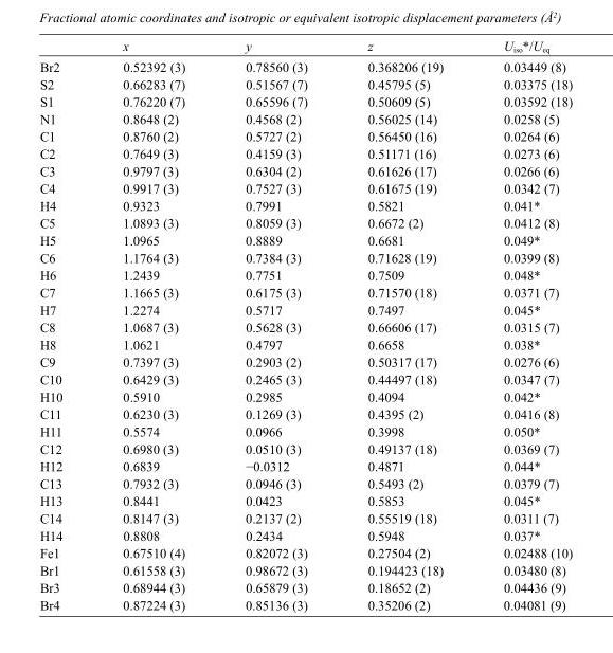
<table><thead><tr><td></td><td>x</td><td>y</td><td>z</td><td>U<sub>iso</sub>*/U<sub>eq</sub></td></tr></thead><tbody><tr><td>Br2</td><td>0.52392 (3)</td><td>0.78560 (3)</td><td>0.368206 (19)</td><td>0.03449 (8)</td></tr><tr><td>S2</td><td>0.66283 (7)</td><td>0.51567 (7)</td><td>0.45795 (5)</td><td>0.03375 (18)</td></tr><tr><td>S1</td><td>0.76220 (7)</td><td>0.65596 (7)</td><td>0.50609 (5)</td><td>0.03592 (18)</td></tr><tr><td>N1</td><td>0.8648 (2)</td><td>0.4568 (2)</td><td>0.56025 (14)</td><td>0.0258 (5)</td></tr><tr><td>C1</td><td>0.8760 (2)</td><td>0.5727 (2)</td><td>0.56450 (16)</td><td>0.0264 (6)</td></tr><tr><td>C2</td><td>0.7649 (3)</td><td>0.4159 (3)</td><td>0.51171 (16)</td><td>0.0273 (6)</td></tr><tr><td>C3</td><td>0.9797 (3)</td><td>0.6304 (2)</td><td>0.61626 (17)</td><td>0.0266 (6)</td></tr><tr><td>C4</td><td>0.9917 (3)</td><td>0.7527 (3)</td><td>0.61675 (19)</td><td>0.0342 (7)</td></tr><tr><td>H4</td><td>0.9323</td><td>0.7991</td><td>0.5821</td><td>0.041*</td></tr><tr><td>C5</td><td>1.0893 (3)</td><td>0.8059 (3)</td><td>0.6672 (2)</td><td>0.0412 (8)</td></tr><tr><td>H5</td><td>1.0965</td><td>0.8889</td><td>0.6681</td><td>0.049*</td></tr><tr><td>C6</td><td>1.1764 (3)</td><td>0.7384 (3)</td><td>0.71628 (19)</td><td>0.0399 (8)</td></tr><tr><td>H6</td><td>1.2439</td><td>0.7751</td><td>0.7509</td><td>0.048*</td></tr><tr><td>C7</td><td>1.1665 (3)</td><td>0.6175 (3)</td><td>0.71570 (18)</td><td>0.0371 (7)</td></tr><tr><td>H7</td><td>1.2274</td><td>0.5717</td><td>0.7497</td><td>0.045*</td></tr><tr><td>C8</td><td>1.0687 (3)</td><td>0.5628 (3)</td><td>0.66606 (17)</td><td>0.0315 (7)</td></tr><tr><td>H8</td><td>1.0621</td><td>0.4797</td><td>0.6658</td><td>0.038*</td></tr><tr><td>C9</td><td>0.7397 (3)</td><td>0.2903 (2)</td><td>0.50317 (17)</td><td>0.0276 (6)</td></tr><tr><td>C10</td><td>0.6429 (3)</td><td>0.2465 (3)</td><td>0.44497 (18)</td><td>0.0347 (7)</td></tr><tr><td>H10</td><td>0.5910</td><td>0.2985</td><td>0.4094</td><td>0.042*</td></tr><tr><td>C11</td><td>0.6230 (3)</td><td>0.1269 (3)</td><td>0.4395 (2)</td><td>0.0416 (8)</td></tr><tr><td>H11</td><td>0.5574</td><td>0.0966</td><td>0.3998</td><td>0.050*</td></tr><tr><td>C12</td><td>0.6980 (3)</td><td>0.0510 (3)</td><td>0.49137 (18)</td><td>0.0369 (7)</td></tr><tr><td>H12</td><td>0.6839</td><td>−0.0312</td><td>0.4871</td><td>0.044*</td></tr><tr><td>C13</td><td>0.7932 (3)</td><td>0.0946 (3)</td><td>0.5493 (2)</td><td>0.0379 (7)</td></tr><tr><td>H13</td><td>0.8441</td><td>0.0423</td><td>0.5853</td><td>0.045*</td></tr><tr><td>C14</td><td>0.8147 (3)</td><td>0.2137 (2)</td><td>0.55519 (18)</td><td>0.0311 (7)</td></tr><tr><td>H14</td><td>0.8808</td><td>0.2434</td><td>0.5948</td><td>0.037*</td></tr><tr><td>Fe1</td><td>0.67510 (4)</td><td>0.82072 (3)</td><td>0.27504 (2)</td><td>0.02488 (10)</td></tr><tr><td>Br1</td><td>0.61558 (3)</td><td>0.98672 (3)</td><td>0.194423 (18)</td><td>0.03480 (8)</td></tr><tr><td>Br3</td><td>0.68944 (3)</td><td>0.65879 (3)</td><td>0.18652 (2)</td><td>0.04436 (9)</td></tr><tr><td>Br4</td><td>0.87224 (3)</td><td>0.85136 (3)</td><td>0.35206 (2)</td><td>0.04081 (9)</td></tr></tbody></table>